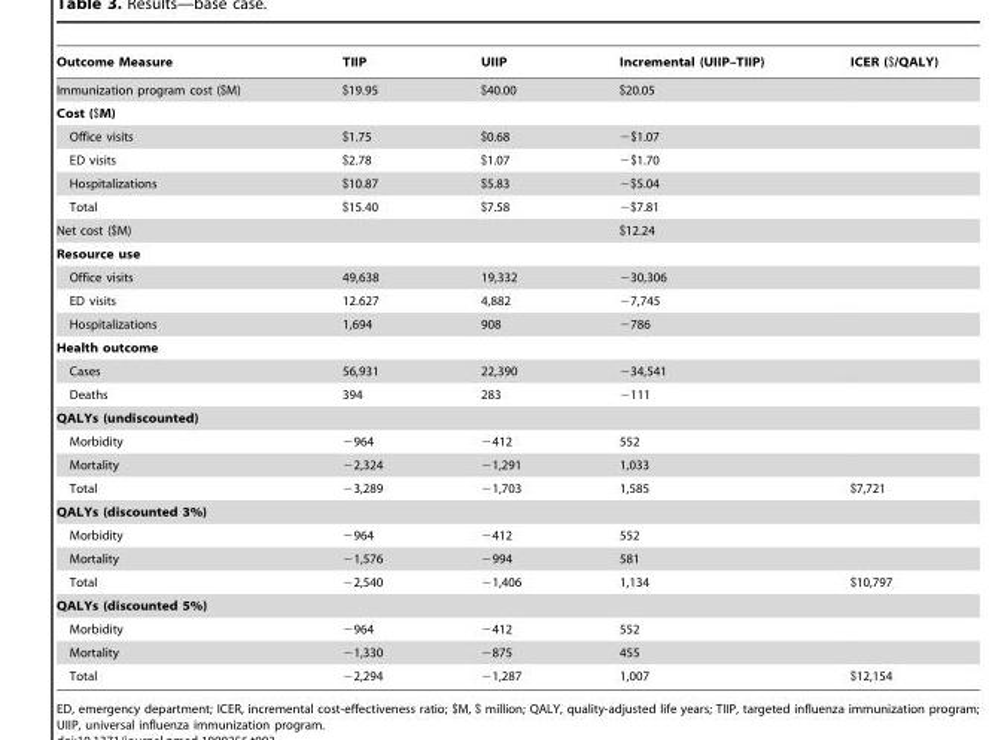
<table><thead><tr><td>Outcome Measure</td><td>TIIP</td><td>UIIP</td><td>Incremental (UIIP–TIIP)</td><td>ICER ($/QALY)</td></tr></thead><tbody><tr><td>Immunization program cost ($M)</td><td>$19.95</td><td>$40.00</td><td>$20.05</td><td></td></tr><tr><td colspan="5">Cost ($M)</td></tr><tr><td>Office visits</td><td>$1.75</td><td>$0.68</td><td>−$1.07</td><td></td></tr><tr><td>ED visits</td><td>$2.78</td><td>$1.07</td><td>−$1.70</td><td></td></tr><tr><td>Hospitalizations</td><td>$10.87</td><td>$5.83</td><td>−$5.04</td><td></td></tr><tr><td>Total</td><td>$15.40</td><td>$7.58</td><td>−$7.81</td><td></td></tr><tr><td>Net cost ($M)</td><td></td><td></td><td>$12.24</td><td></td></tr><tr><td colspan="5">Resource use</td></tr><tr><td>Office visits</td><td>49,638</td><td>19,332</td><td>−30,306</td><td></td></tr><tr><td>ED visits</td><td>12.627</td><td>4,882</td><td>−7,745</td><td></td></tr><tr><td>Hospitalizations</td><td>1,694</td><td>908</td><td>−786</td><td></td></tr><tr><td colspan="5">Health outcome</td></tr><tr><td>Cases</td><td>56,931</td><td>22,390</td><td>−34,541</td><td></td></tr><tr><td>Deaths</td><td>394</td><td>283</td><td>−111</td><td></td></tr><tr><td colspan="5">QALYs (undiscounted)</td></tr><tr><td>Morbidity</td><td>−964</td><td>−412</td><td>552</td><td></td></tr><tr><td>Mortality</td><td>−2,324</td><td>−1,291</td><td>1,033</td><td></td></tr><tr><td>Total</td><td>−3,289</td><td>−1,703</td><td>1,585</td><td>$7,721</td></tr><tr><td colspan="5">QALYs (discounted 3%)</td></tr><tr><td>Morbidity</td><td>−964</td><td>−412</td><td>552</td><td></td></tr><tr><td>Mortality</td><td>−1,576</td><td>−994</td><td>581</td><td></td></tr><tr><td>Total</td><td>−2,540</td><td>−1,406</td><td>1,134</td><td>$10,797</td></tr><tr><td colspan="5">QALYs (discounted 5%)</td></tr><tr><td>Morbidity</td><td>−964</td><td>−412</td><td>552</td><td></td></tr><tr><td>Mortality</td><td>−1,330</td><td>−875</td><td>455</td><td></td></tr><tr><td>Total</td><td>−2,294</td><td>−1,287</td><td>1,007</td><td>$12,154</td></tr></tbody></table>